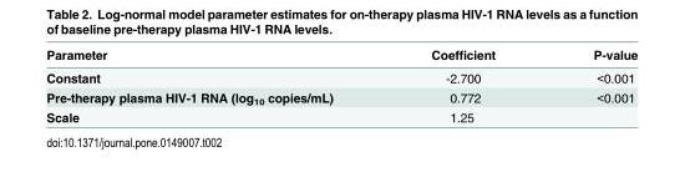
<table><thead><tr><td>Parameter</td><td>Coefficient</td><td>P-value</td></tr></thead><tbody><tr><td>Constant</td><td>-2.700</td><td>&lt;0.001</td></tr><tr><td>Pre-therapy plasma HIV-1 RNA (log<sub>10</sub> copies/mL)</td><td>0.772</td><td>&lt;0.001</td></tr><tr><td>Scale</td><td>1.25</td><td></td></tr></tbody></table>